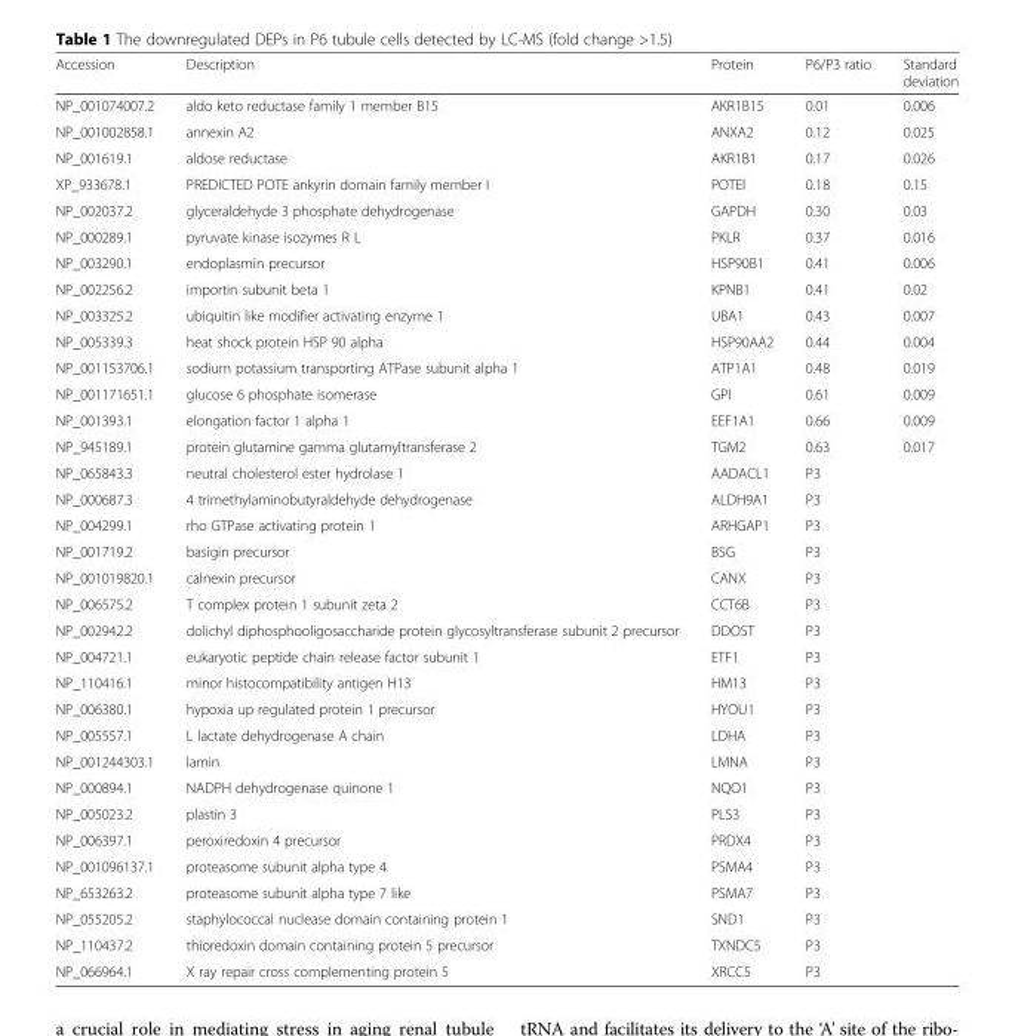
<table><thead><tr><td>Accession</td><td>Description</td><td>Protein</td><td>P6/P3 ratio</td><td>Standard deviation</td></tr></thead><tbody><tr><td>NP_001074007.2</td><td>aldo keto reductase family 1 member B15</td><td>AKR1B15</td><td>0.01</td><td>0.006</td></tr><tr><td>NP_001002858.1</td><td>annexin A2</td><td>ANXA2</td><td>0.12</td><td>0.025</td></tr><tr><td>NP_001619.1</td><td>aldose reductase</td><td>AKR1B1</td><td>0.17</td><td>0.026</td></tr><tr><td>XP_933678.1</td><td>PREDICTED POTE ankyrin domain family member I</td><td>POTEI</td><td>0.18</td><td>0.15</td></tr><tr><td>NP_002037.2</td><td>glyceraldehyde 3 phosphate dehydrogenase</td><td>GAPDH</td><td>0.30</td><td>0.03</td></tr><tr><td>NP_000289.1</td><td>pyruvate kinase isozymes R L</td><td>PKLR</td><td>0.37</td><td>0.016</td></tr><tr><td>NP_003290.1</td><td>endoplasmin precursor</td><td>HSP90B1</td><td>0.41</td><td>0.006</td></tr><tr><td>NP_002256.2</td><td>importin subunit beta 1</td><td>KPNB1</td><td>0.41</td><td>0.02</td></tr><tr><td>NP_003325.2</td><td>ubiquitin like modifier activating enzyme 1</td><td>UBA1</td><td>0.43</td><td>0.007</td></tr><tr><td>NP_005339.3</td><td>heat shock protein HSP 90 alpha</td><td>HSP90AA2</td><td>0.44</td><td>0.004</td></tr><tr><td>NP_001153706.1</td><td>sodium potassium transporting ATPase subunit alpha 1</td><td>ATP1A1</td><td>0.48</td><td>0.019</td></tr><tr><td>NP_001171651.1</td><td>glucose 6 phosphate isomerase</td><td>GPI</td><td>0.61</td><td>0.009</td></tr><tr><td>NP_001393.1</td><td>elongation factor 1 alpha 1</td><td>EEF1A1</td><td>0.66</td><td>0.009</td></tr><tr><td>NP_945189.1</td><td>protein glutamine gamma glutamyltransferase 2</td><td>TGM2</td><td>0.63</td><td>0.017</td></tr><tr><td>NP_065843.3</td><td>neutral cholesterol ester hydrolase 1</td><td>AADACL1</td><td>P3</td><td></td></tr><tr><td>NP_000687.3</td><td>4 trimethylaminobutyraldehyde dehydrogenase</td><td>ALDH9A1</td><td>P3</td><td></td></tr><tr><td>NP_004299.1</td><td>rho GTPase activating protein 1</td><td>ARHGAP1</td><td>P3</td><td></td></tr><tr><td>NP_001719.2</td><td>basigin precursor</td><td>BSG</td><td>P3</td><td></td></tr><tr><td>NP_001019820.1</td><td>calnexin precursor</td><td>CANX</td><td>P3</td><td></td></tr><tr><td>NP_006575.2</td><td>T complex protein 1 subunit zeta 2</td><td>CCT6B</td><td>P3</td><td></td></tr><tr><td>NP_002942.2</td><td>dolichyl diphosphooligosaccharide protein glycosyltransferase subunit 2 precursor</td><td>DDOST</td><td>P3</td><td></td></tr><tr><td>NP_004721.1</td><td>eukaryotic peptide chain release factor subunit 1</td><td>ETF1</td><td>P3</td><td></td></tr><tr><td>NP_110416.1</td><td>minor histocompatibility antigen H13</td><td>HM13</td><td>P3</td><td></td></tr><tr><td>NP_006380.1</td><td>hypoxia up regulated protein 1 precursor</td><td>HYOU1</td><td>P3</td><td></td></tr><tr><td>NP_005557.1</td><td>L lactate dehydrogenase A chain</td><td>LDHA</td><td>P3</td><td></td></tr><tr><td>NP_001244303.1</td><td>lamin</td><td>LMNA</td><td>P3</td><td></td></tr><tr><td>NP_000894.1</td><td>NADPH dehydrogenase quinone 1</td><td>NQO1</td><td>P3</td><td></td></tr><tr><td>NP_005023.2</td><td>plastin 3</td><td>PLS3</td><td>P3</td><td></td></tr><tr><td>NP_006397.1</td><td>peroxiredoxin 4 precursor</td><td>PRDX4</td><td>P3</td><td></td></tr><tr><td>NP_001096137.1</td><td>proteasome subunit alpha type 4</td><td>PSMA4</td><td>P3</td><td></td></tr><tr><td>NP_653263.2</td><td>proteasome subunit alpha type 7 like</td><td>PSMA7</td><td>P3</td><td></td></tr><tr><td>NP_055205.2</td><td>staphylococcal nuclease domain containing protein 1</td><td>SND1</td><td>P3</td><td></td></tr><tr><td>NP_110437.2</td><td>thioredoxin domain containing protein 5 precursor</td><td>TXNDC5</td><td>P3</td><td></td></tr><tr><td>NP_066964.1</td><td>X ray repair cross complementing protein 5</td><td>XRCC5</td><td>P3</td><td></td></tr></tbody></table>